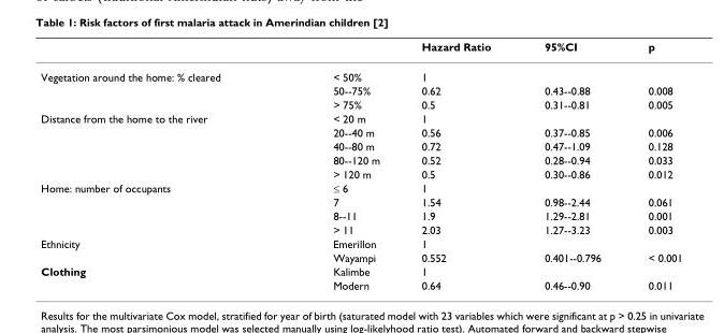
<table><thead><tr><td></td><td></td><td>Hazard Ratio</td><td>95%CI</td><td>p</td></tr></thead><tbody><tr><td rowspan="3">Vegetation around the home: % cleared</td><td>&lt; 50%</td><td>1</td><td></td><td></td></tr><tr><td>50--75%</td><td>0.62</td><td>0.43--0.88</td><td>0.008</td></tr><tr><td>&gt; 75%</td><td>0.5</td><td>0.31--0.81</td><td>0.005</td></tr><tr><td rowspan="5">Distance from the home to the river</td><td>&lt; 20 m</td><td>1</td><td></td><td></td></tr><tr><td>20--40 m</td><td>0.56</td><td>0.37--0.85</td><td>0.006</td></tr><tr><td>40--80 m</td><td>0.72</td><td>0.47--1.09</td><td>0.128</td></tr><tr><td>80--120 m</td><td>0.52</td><td>0.28--0.94</td><td>0.033</td></tr><tr><td>&gt; 120 m</td><td>0.5</td><td>0.30--0.86</td><td>0.012</td></tr><tr><td rowspan="4">Home: number of occupants</td><td>≤ 6</td><td>1</td><td></td><td></td></tr><tr><td>7</td><td>1.54</td><td>0.98--2.44</td><td>0.061</td></tr><tr><td>8--11</td><td>1.9</td><td>1.29--2.81</td><td>0.001</td></tr><tr><td>&gt; 11</td><td>2.03</td><td>1.27--3.23</td><td>0.003</td></tr><tr><td rowspan="2">Ethnicity</td><td>Emerillon</td><td>1</td><td></td><td></td></tr><tr><td>Wayampi</td><td>0.552</td><td>0.401--0.796</td><td>&lt; 0.001</td></tr><tr><td rowspan="2">Clothing</td><td>Kalimbe</td><td>1</td><td></td><td></td></tr><tr><td>Modern</td><td>0.64</td><td>0.46--0.90</td><td>0.011</td></tr></tbody></table>